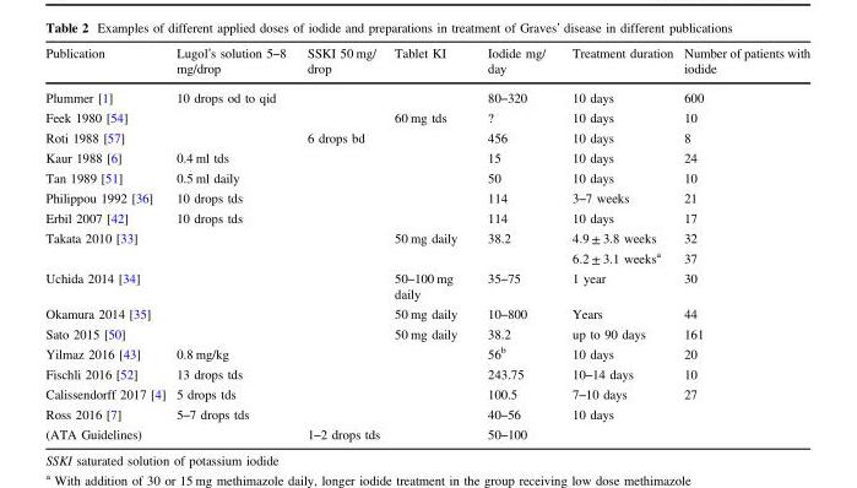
<table><thead><tr><td>Publication</td><td>Lugol’s solution 5–8 mg/drop</td><td>SSKI 50 mg/ drop</td><td>Tablet KI</td><td>Iodide mg/ day</td><td>Treatment duration</td><td>Number of patients with iodide</td></tr></thead><tbody><tr><td>Plummer [1]</td><td>10 drops od to qid</td><td></td><td></td><td>80–320</td><td>10 days</td><td>600</td></tr><tr><td>Feek 1980 [54]</td><td></td><td></td><td>60 mg tds</td><td>?</td><td>10 days</td><td>10</td></tr><tr><td>Roti 1988 [57]</td><td></td><td>6 drops bd</td><td></td><td>456</td><td>10 days</td><td>8</td></tr><tr><td>Kaur 1988 [6]</td><td>0.4 ml tds</td><td></td><td></td><td>15</td><td>10 days</td><td>24</td></tr><tr><td>Tan 1989 [51]</td><td>0.5 ml daily</td><td></td><td></td><td>50</td><td>10 days</td><td>10</td></tr><tr><td>Philippou 1992 [36]</td><td>10 drops tds</td><td></td><td></td><td>114</td><td>3–7 weeks</td><td>21</td></tr><tr><td>Erbil 2007 [42]</td><td>10 drops tds</td><td></td><td></td><td>114</td><td>10 days</td><td>17</td></tr><tr><td rowspan="2">Takata 2010 [33]</td><td></td><td></td><td>50 mg daily</td><td>38.2</td><td>4.9 ± 3.8 weeks</td><td>32</td></tr><tr><td></td><td></td><td></td><td></td><td>6.2 ± 3.1 weeks<sup>a</sup></td><td>37</td></tr><tr><td>Uchida 2014 [34]</td><td></td><td></td><td>50–100 mg daily</td><td>35–75</td><td>1 year</td><td>30</td></tr><tr><td>Okamura 2014 [35]</td><td></td><td></td><td>50 mg daily</td><td>10–800</td><td>Years</td><td>44</td></tr><tr><td>Sato 2015 [50]</td><td></td><td></td><td>50 mg daily</td><td>38.2</td><td>up to 90 days</td><td>161</td></tr><tr><td>Yilmaz 2016 [43]</td><td>0.8 mg/kg</td><td></td><td></td><td>56<sup>b</sup></td><td>10 days</td><td>20</td></tr><tr><td>Fischli 2016 [52]</td><td>13 drops tds</td><td></td><td></td><td>243.75</td><td>10–14 days</td><td>10</td></tr><tr><td>Calissendorff 2017 [4]</td><td>5 drops tds</td><td></td><td></td><td>100.5</td><td>7–10 days</td><td>27</td></tr><tr><td>Ross 2016 [7]</td><td>5–7 drops tds</td><td></td><td></td><td>40–56</td><td>10 days</td><td></td></tr><tr><td>(ATA Guidelines)</td><td></td><td>1–2 drops tds</td><td></td><td>50–100</td><td></td><td></td></tr></tbody></table>